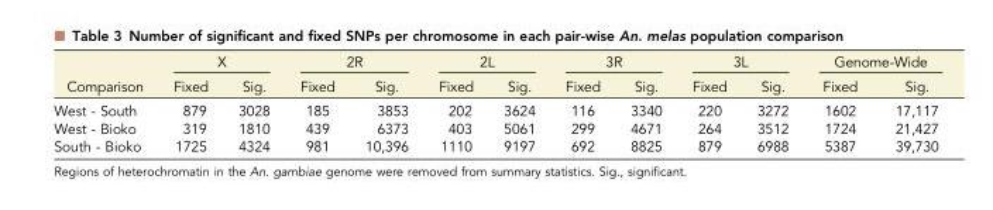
<table><thead><tr><td rowspan="2">Comparison</td><td colspan="2">X</td><td colspan="2">2R</td><td colspan="2">2L</td><td colspan="2">3R</td><td colspan="2">3L</td><td colspan="2">Genome-Wide</td></tr><tr><td>Fixed</td><td>Sig.</td><td>Fixed</td><td>Sig.</td><td>Fixed</td><td>Sig.</td><td>Fixed</td><td>Sig.</td><td>Fixed</td><td>Sig.</td><td>Fixed</td><td>Sig.</td></tr></thead><tbody><tr><td>West - South</td><td>879</td><td>3028</td><td>185</td><td>3853</td><td>202</td><td>3624</td><td>116</td><td>3340</td><td>220</td><td>3272</td><td>1602</td><td>17,117</td></tr><tr><td>West - Bioko</td><td>319</td><td>1810</td><td>439</td><td>6373</td><td>403</td><td>5061</td><td>299</td><td>4671</td><td>264</td><td>3512</td><td>1724</td><td>21,427</td></tr><tr><td>South - Bioko</td><td>1725</td><td>4324</td><td>981</td><td>10,396</td><td>1110</td><td>9197</td><td>692</td><td>8825</td><td>879</td><td>6988</td><td>5387</td><td>39,730</td></tr></tbody></table>